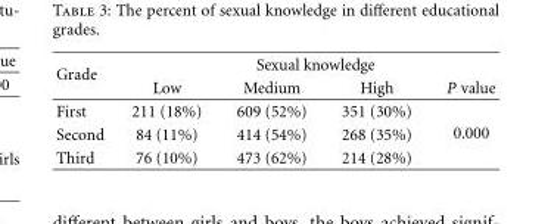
<table><thead><tr><td rowspan="2">Grade</td><td colspan="4">Sexual knowledge</td></tr><tr><td>Low</td><td>Medium</td><td>High</td><td>P value</td></tr></thead><tbody><tr><td>First</td><td>211 (18%)</td><td>609 (52%)</td><td>351 (30%)</td><td rowspan="3">0.000</td></tr><tr><td>Second</td><td>84 (11%)</td><td>414 (54%)</td><td>268 (35%)</td></tr><tr><td>Third</td><td>76 (10%)</td><td>473 (62%)</td><td>214 (28%)</td></tr></tbody></table>